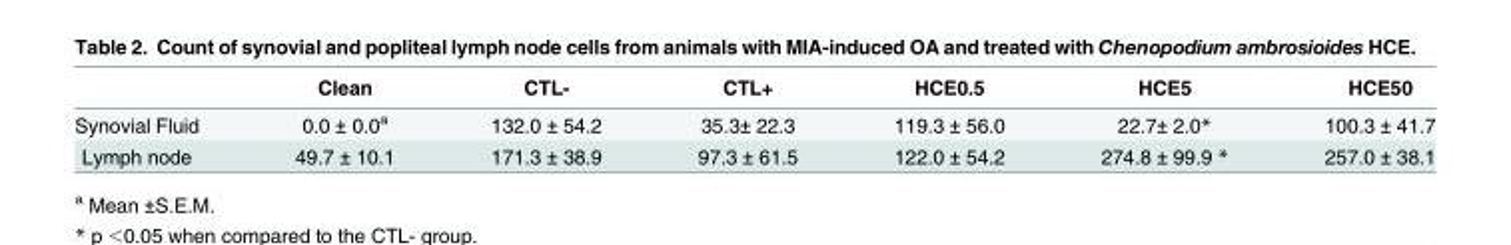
<table><thead><tr><td></td><td>Clean</td><td>CTL-</td><td>CTL+</td><td>HCE0.5</td><td>HCE5</td><td>HCE50</td></tr></thead><tbody><tr><td>Synovial Fluid</td><td>0.0 ± 0.0<sup>a</sup></td><td>132.0 ± 54.2</td><td>35.3± 22.3</td><td>119.3 ± 56.0</td><td>22.7± 2.0*</td><td>100.3 ± 41.7</td></tr><tr><td>Lymph node</td><td>49.7 ± 10.1</td><td>171.3 ± 38.9</td><td>97.3 ± 61.5</td><td>122.0 ± 54.2</td><td>274.8 ± 99.9 *</td><td>257.0 ± 38.1</td></tr></tbody></table>